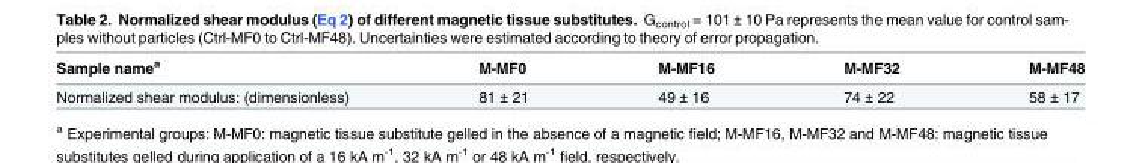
<table><thead><tr><td>Sample name<sup>a</sup></td><td>M-MF0</td><td>M-MF16</td><td>M-MF32</td><td>M-MF48</td></tr></thead><tbody><tr><td>Normalized shear modulus: (dimensionless)</td><td>81 ± 21</td><td>49 ± 16</td><td>74 ± 22</td><td>58 ± 17</td></tr></tbody></table>